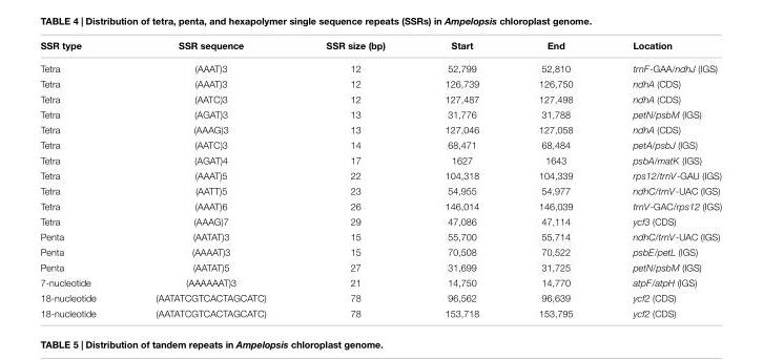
<table><thead><tr><td>SSR type</td><td>SSR sequence</td><td>SSR size (bp)</td><td>Start</td><td>End</td><td>Location</td></tr></thead><tbody><tr><td>Tetra</td><td>(AAAT)3</td><td>12</td><td>52,799</td><td>52,810</td><td>trnF-GAA/ndhJ (IGS)</td></tr><tr><td>Tetra</td><td>(AAAT)3</td><td>12</td><td>126,739</td><td>126,750</td><td>ndhA (CDS)</td></tr><tr><td>Tetra</td><td>(AATC)3</td><td>12</td><td>127,487</td><td>127,498</td><td>ndhA (CDS)</td></tr><tr><td>Tetra</td><td>(AGAT)3</td><td>13</td><td>31,776</td><td>31,788</td><td>petN/psbM (IGS)</td></tr><tr><td>Tetra</td><td>(AAAG)3</td><td>13</td><td>127,046</td><td>127,058</td><td>ndhA (CDS)</td></tr><tr><td>Tetra</td><td>(AATC)3</td><td>14</td><td>68,471</td><td>68,484</td><td>petA/psbJ (IGS)</td></tr><tr><td>Tetra</td><td>(AGAT)4</td><td>17</td><td>1627</td><td>1643</td><td>psbA/matK (IGS)</td></tr><tr><td>Tetra</td><td>(AAAT)5</td><td>22</td><td>104,318</td><td>104,339</td><td>rps12/trnV-GAU (IGS)</td></tr><tr><td>Tetra</td><td>(AATT)5</td><td>23</td><td>54,955</td><td>54,977</td><td>ndhC/trnV-UAC (IGS)</td></tr><tr><td>Tetra</td><td>(AAAT)6</td><td>26</td><td>146,014</td><td>146,039</td><td>trnV-GAC/rps12 (IGS)</td></tr><tr><td>Tetra</td><td>(AAAG)7</td><td>29</td><td>47,086</td><td>47,114</td><td>ycf3 (CDS)</td></tr><tr><td>Penta</td><td>(AATAT)3</td><td>15</td><td>55,700</td><td>55,714</td><td>ndhC/trnV-UAC (IGS)</td></tr><tr><td>Penta</td><td>(AAAAT)3</td><td>15</td><td>70,508</td><td>70,522</td><td>psbE/petL (IGS)</td></tr><tr><td>Penta</td><td>(AATAT)5</td><td>27</td><td>31,699</td><td>31,725</td><td>petN/psbM (IGS)</td></tr><tr><td>7-nucleotide</td><td>(AAAAAAT)3</td><td>21</td><td>14,750</td><td>14,770</td><td>atpF/atpH (IGS)</td></tr><tr><td>18-nucleotide</td><td>(AATATCGTCACTAGCATC)</td><td>78</td><td>96,562</td><td>96,639</td><td>ycf2 (CDS)</td></tr><tr><td>18-nucleotide</td><td>(AATATCGTCACTAGCATC)</td><td>78</td><td>153,718</td><td>153,795</td><td>ycf2 (CDS)</td></tr></tbody></table>